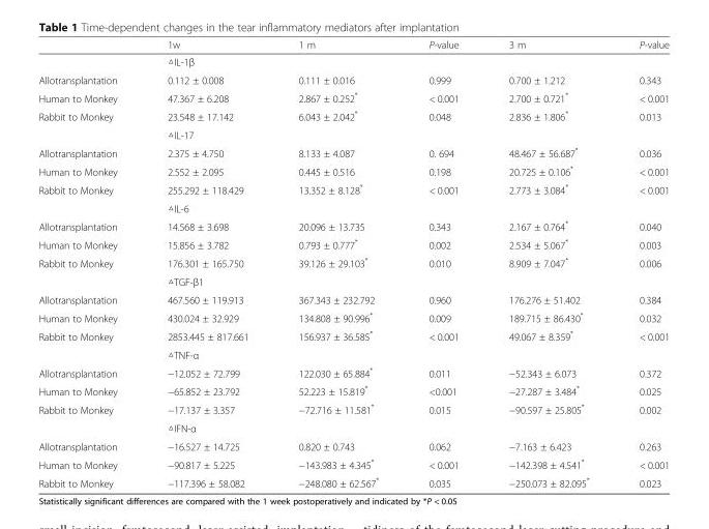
<table><thead><tr><td></td><td>1w</td><td>1 m</td><td>P-value</td><td>3 m</td><td>P-value</td></tr></thead><tbody><tr><td></td><td colspan="5">△IL-1β</td></tr><tr><td>Allotransplantation</td><td>0.112 ± 0.008</td><td>0.111 ± 0.016</td><td>0.999</td><td>0.700 ± 1.212</td><td>0.343</td></tr><tr><td>Human to Monkey</td><td>47.367 ± 6.208</td><td>2.867 ± 0.252*</td><td>&lt; 0.001</td><td>2.700 ± 0.721*</td><td>&lt; 0.001</td></tr><tr><td rowspan="2">Rabbit to Monkey</td><td>23.548 ± 17.142</td><td>6.043 ± 2.042*</td><td>0.048</td><td>2.836 ± 1.806*</td><td>0.013</td></tr><tr><td colspan="5">△IL-17</td></tr><tr><td>Allotransplantation</td><td>2.375 ± 4.750</td><td>8.133 ± 4.087</td><td>0. 694</td><td>48.467 ± 56.687*</td><td>0.036</td></tr><tr><td>Human to Monkey</td><td>2.552 ± 2.095</td><td>0.445 ± 0.516</td><td>0.198</td><td>20.725 ± 0.106*</td><td>&lt; 0.001</td></tr><tr><td rowspan="2">Rabbit to Monkey</td><td>255.292 ± 118.429</td><td>13.352 ± 8.128*</td><td>&lt; 0.001</td><td>2.773 ± 3.084*</td><td>&lt; 0.001</td></tr><tr><td colspan="5">△IL-6</td></tr><tr><td>Allotransplantation</td><td>14.568 ± 3.698</td><td>20.096 ± 13.735</td><td>0.343</td><td>2.167 ± 0.764*</td><td>0.040</td></tr><tr><td>Human to Monkey</td><td>15.856 ± 3.782</td><td>0.793 ± 0.777*</td><td>0.002</td><td>2.534 ± 5.067*</td><td>0.003</td></tr><tr><td rowspan="2">Rabbit to Monkey</td><td>176.301 ± 165.750</td><td>39.126 ± 29.103*</td><td>0.010</td><td>8.909 ± 7.047*</td><td>0.006</td></tr><tr><td colspan="5">△TGF-β1</td></tr><tr><td>Allotransplantation</td><td>467.560 ± 119.913</td><td>367.343 ± 232.792</td><td>0.960</td><td>176.276 ± 51.402</td><td>0.384</td></tr><tr><td>Human to Monkey</td><td>430.024 ± 32.929</td><td>134.808 ± 90.996*</td><td>0.009</td><td>189.715 ± 86.430*</td><td>0.032</td></tr><tr><td rowspan="2">Rabbit to Monkey</td><td>2853.445 ± 817.661</td><td>156.937 ± 36.585*</td><td>&lt; 0.001</td><td>49.067 ± 8.359*</td><td>&lt; 0.001</td></tr><tr><td colspan="5">△TNF-α</td></tr><tr><td>Allotransplantation</td><td>−12.052 ± 72.799</td><td>122.030 ± 65.884*</td><td>0.011</td><td>−52.343 ± 6.073</td><td>0.372</td></tr><tr><td>Human to Monkey</td><td>−65.852 ± 23.792</td><td>52.223 ± 15.819*</td><td>&lt;0.001</td><td>−27.287 ± 3.484*</td><td>0.025</td></tr><tr><td rowspan="2">Rabbit to Monkey</td><td>−17.137 ± 3.357</td><td>−72.716 ± 11.581*</td><td>0.015</td><td>−90.597 ± 25.805*</td><td>0.002</td></tr><tr><td colspan="5">△IFN-α</td></tr><tr><td>Allotransplantation</td><td>−16.527 ± 14.725</td><td>0.820 ± 0.743</td><td>0.062</td><td>−7.163 ± 6.423</td><td>0.263</td></tr><tr><td>Human to Monkey</td><td>−90.817 ± 5.225</td><td>−143.983 ± 4.345*</td><td>&lt; 0.001</td><td>−142.398 ± 4.541*</td><td>&lt; 0.001</td></tr><tr><td>Rabbit to Monkey</td><td>−117.396 ± 58.082</td><td>−248.080 ± 62.567*</td><td>0.035</td><td>−250.073 ± 82.095*</td><td>0.023</td></tr></tbody></table>